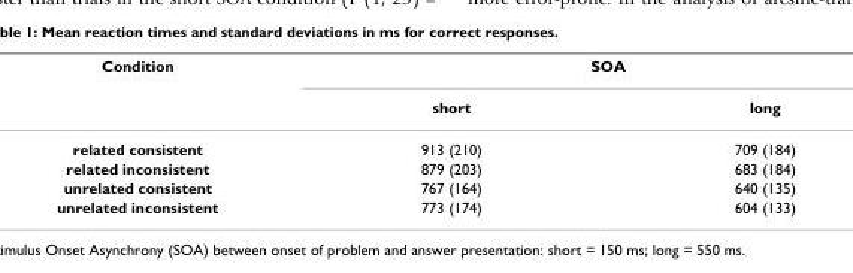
<table><thead><tr><td rowspan="2">Condition</td><td colspan="2">SOA</td></tr><tr><td>short</td><td>long</td></tr></thead><tbody><tr><td>related consistent</td><td>913 (210)</td><td>709 (184)</td></tr><tr><td>related inconsistent</td><td>879 (203)</td><td>683 (184)</td></tr><tr><td>unrelated consistent</td><td>767 (164)</td><td>640 (135)</td></tr><tr><td>unrelated inconsistent</td><td>773 (174)</td><td>604 (133)</td></tr></tbody></table>